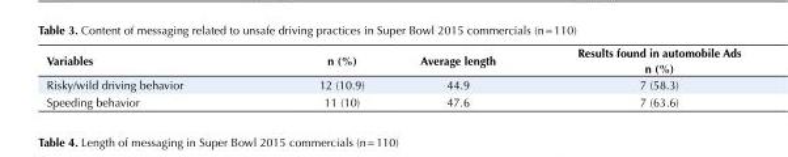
<table><tbody><tr><td>Variables</td><td>n (%)</td><td>Average length</td><td>Results found in automobile Ads n (%)</td></tr><tr><td>Risky/wild driving behavior</td><td>12 (10.9)</td><td>44.9</td><td>7 (58.3)</td></tr><tr><td>Speeding behavior</td><td>11 (10)</td><td>47.6</td><td>7 (63.6)</td></tr></tbody></table>